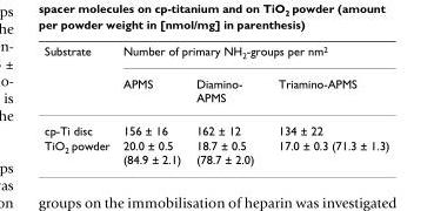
<table><thead><tr><td rowspan="2">Substrate</td><td colspan="3">Number of primary NH<sub>2</sub>-groups per nm<sup>2</sup></td></tr><tr><td>APMS</td><td>Diamino- APMS</td><td>Triamino-APMS</td></tr></thead><tbody><tr><td>cp-Ti disc</td><td>156 ± 16</td><td>162 ± 12</td><td>134 ± 22</td></tr><tr><td>TiO<sub>2</sub> powder</td><td>20.0 ± 0.5 (84.9 ± 2.1)</td><td>18.7 ± 0.5 (78.7 ± 2.0)</td><td>17.0 ± 0.3 (71.3 ± 1.3)</td></tr></tbody></table>